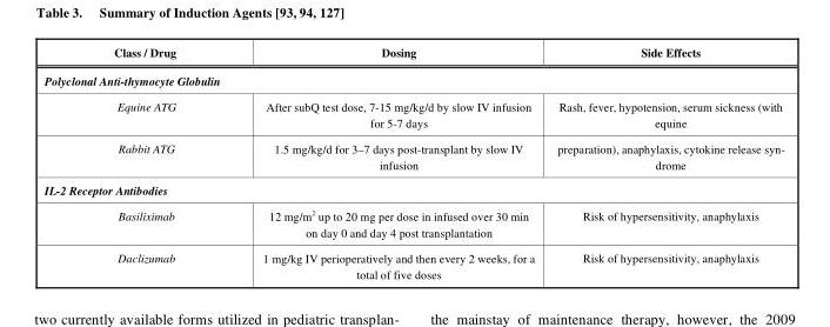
<table><thead><tr><td>Class / Drug</td><td>Dosing</td><td>Side Effects</td></tr></thead><tbody><tr><td colspan="3">Polyclonal Anti-thymocyte Globulin</td></tr><tr><td>Equine ATG</td><td>After subQ test dose, 7-15 mg/kg/d by slow IV infusion for 5-7 days</td><td>Rash, fever, hypotension, serum sickness (with equine</td></tr><tr><td>Rabbit ATG</td><td>1.5 mg/kg/d for 3–7 days post-transplant by slow IV infusion</td><td>preparation), anaphylaxis, cytokine release syn- drome</td></tr><tr><td colspan="3">IL-2 Receptor Antibodies</td></tr><tr><td>Basiliximab</td><td>12 mg/m<sup>2</sup> up to 20 mg per dose in infused over 30 min on day 0 and day 4 post transplantation</td><td>Risk of hypersensitivity, anaphylaxis</td></tr><tr><td>Daclizumab</td><td>1 mg/kg IV perioperatively and then every 2 weeks, for a total of five doses</td><td>Risk of hypersensitivity, anaphylaxis</td></tr></tbody></table>